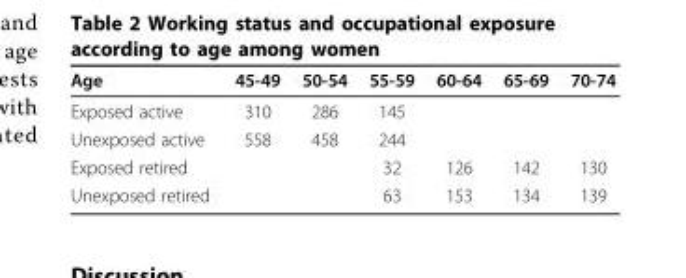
<table><thead><tr><td>Age</td><td>45-49</td><td>50-54</td><td>55-59</td><td>60-64</td><td>65-69</td><td>70-74</td></tr></thead><tbody><tr><td>Exposed active</td><td>310</td><td>286</td><td>145</td><td></td><td></td><td></td></tr><tr><td>Unexposed active</td><td>558</td><td>458</td><td>244</td><td></td><td></td><td></td></tr><tr><td>Exposed retired</td><td></td><td></td><td>32</td><td>126</td><td>142</td><td>130</td></tr><tr><td>Unexposed retired</td><td></td><td></td><td>63</td><td>153</td><td>134</td><td>139</td></tr></tbody></table>